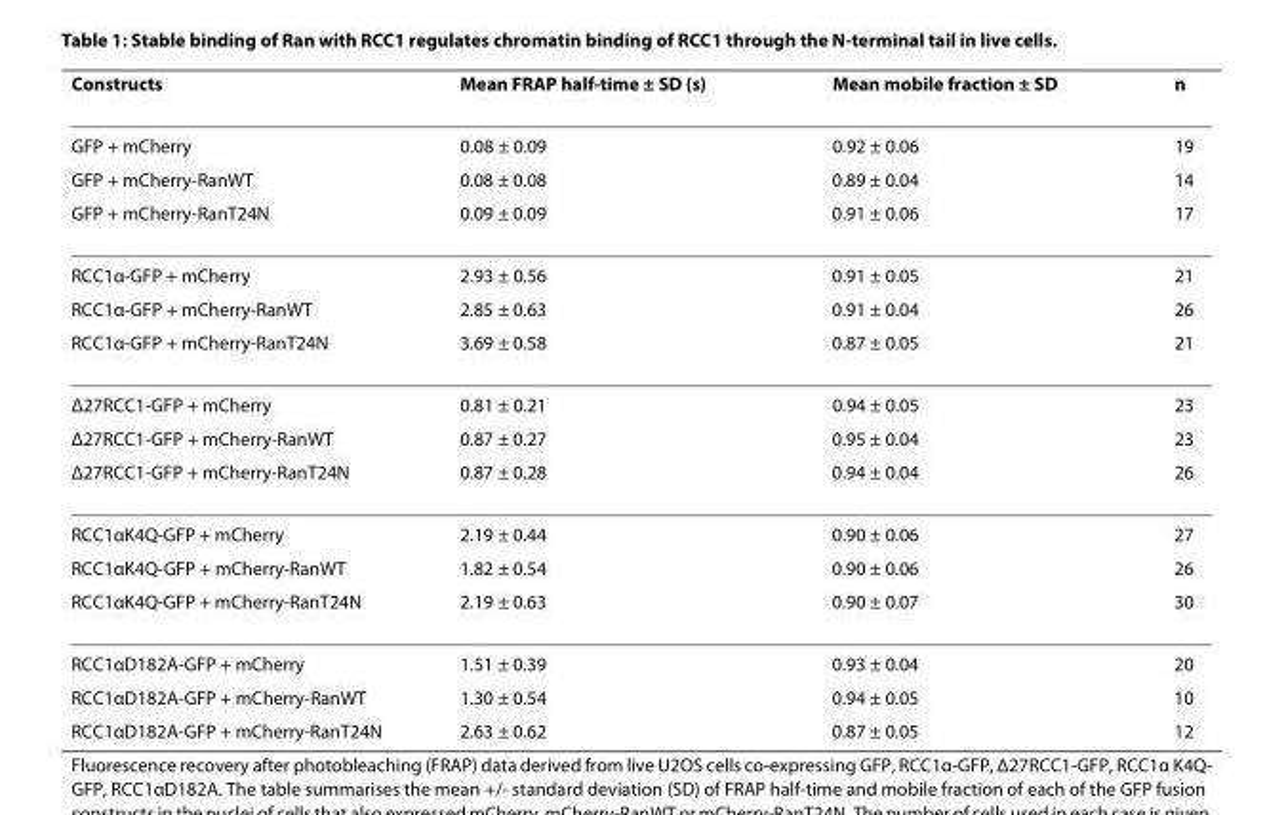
<table><thead><tr><td>Constructs</td><td>Mean FRAP half-time ± SD (s)</td><td>Mean mobile fraction ± SD</td><td>n</td></tr></thead><tbody><tr><td>GFP + mCherry</td><td>0.08 ± 0.09</td><td>0.92 ± 0.06</td><td>19</td></tr><tr><td>GFP + mCherry-RanWT</td><td>0.08 ± 0.08</td><td>0.89 ± 0.04</td><td>14</td></tr><tr><td>GFP + mCherry-RanT24N</td><td>0.09 ± 0.09</td><td>0.91 ± 0.06</td><td>17</td></tr><tr><td>RCC1α-GFP + mCherry</td><td>2.93 ± 0.56</td><td>0.91 ± 0.05</td><td>21</td></tr><tr><td>RCC1α-GFP + mCherry-RanWT</td><td>2.85 ± 0.63</td><td>0.91 ± 0.04</td><td>26</td></tr><tr><td>RCC1α-GFP + mCherry-RanT24N</td><td>3.69 ± 0.58</td><td>0.87 ± 0.05</td><td>21</td></tr><tr><td>Δ27RCC1-GFP + mCherry</td><td>0.81 ± 0.21</td><td>0.94 ± 0.05</td><td>23</td></tr><tr><td>Δ27RCC1-GFP + mCherry-RanWT</td><td>0.87 ± 0.27</td><td>0.95 ± 0.04</td><td>23</td></tr><tr><td>Δ27RCC1-GFP + mCherry-RanT24N</td><td>0.87 ± 0.28</td><td>0.94 ± 0.04</td><td>26</td></tr><tr><td>RCC1αK4Q-GFP + mCherry</td><td>2.19 ± 0.44</td><td>0.90 ± 0.06</td><td>27</td></tr><tr><td>RCC1αK4Q-GFP + mCherry-RanWT</td><td>1.82 ± 0.54</td><td>0.90 ± 0.06</td><td>26</td></tr><tr><td>RCC1αK4Q-GFP + mCherry-RanT24N</td><td>2.19 ± 0.63</td><td>0.90 ± 0.07</td><td>30</td></tr><tr><td>RCC1αD182A-GFP + mCherry</td><td>1.51 ± 0.39</td><td>0.93 ± 0.04</td><td>20</td></tr><tr><td>RCC1αD182A-GFP + mCherry-RanWT</td><td>1.30 ± 0.54</td><td>0.94 ± 0.05</td><td>10</td></tr><tr><td>RCC1αD182A-GFP + mCherry-RanT24N</td><td>2.63 ± 0.62</td><td>0.87 ± 0.05</td><td>12</td></tr></tbody></table>